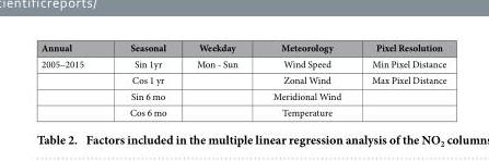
<table><thead><tr><td>Annual</td><td>Seasonal</td><td>Weekday</td><td>Meteorology</td><td>Pixel Resolution</td></tr></thead><tbody><tr><td rowspan="4">2005–2015</td><td>Sin 1yr</td><td>Mon - Sun</td><td>Wind Speed</td><td>Min Pixel Distance</td></tr><tr><td>Cos 1 yr</td><td></td><td>Zonal Wind</td><td>Max Pixel Distance</td></tr><tr><td>Sin 6 mo</td><td></td><td>Meridional Wind</td><td></td></tr><tr><td>Cos 6 mo</td><td></td><td>Temperature</td><td></td></tr></tbody></table>